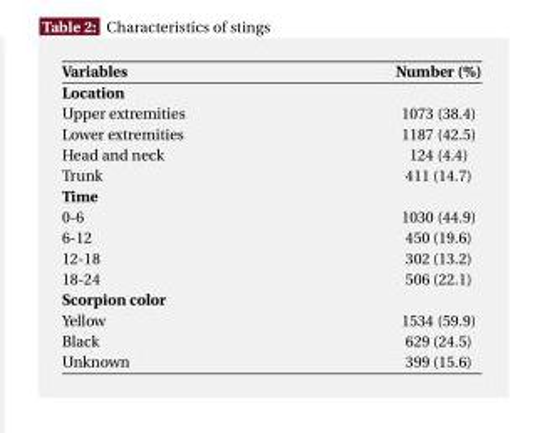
<table><thead><tr><td>Variables</td><td>Number (%)</td></tr></thead><tbody><tr><td colspan="2">Location</td></tr><tr><td>Upper extremities</td><td>1073 (38.4)</td></tr><tr><td>Lower extremities</td><td>1187 (42.5)</td></tr><tr><td>Head and neck</td><td>124 (4.4)</td></tr><tr><td>Trunk</td><td>411 (14.7)</td></tr><tr><td colspan="2">Time</td></tr><tr><td>0-6</td><td>1030 (44.9)</td></tr><tr><td>6-12</td><td>450 (19.6)</td></tr><tr><td>12-18</td><td>302 (13.2)</td></tr><tr><td>18-24</td><td>506 (22.1)</td></tr><tr><td colspan="2">Scorpion color</td></tr><tr><td>Yellow</td><td>1534 (59.9)</td></tr><tr><td>Black</td><td>629 (24.5)</td></tr><tr><td>Unknown</td><td>399 (15.6)</td></tr></tbody></table>